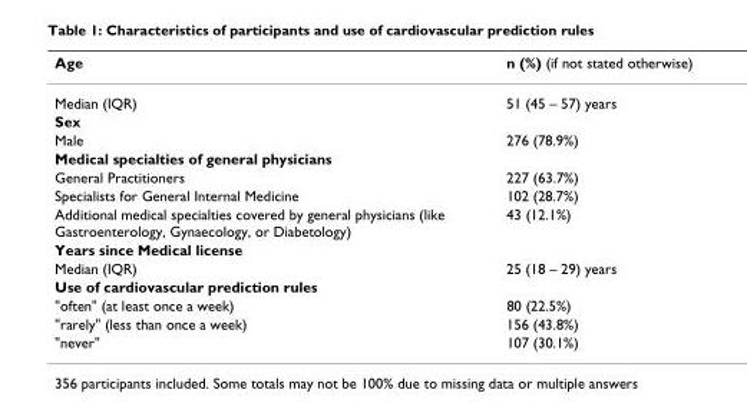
<table><thead><tr><td>Age</td><td>n (%) (if not stated otherwise)</td></tr></thead><tbody><tr><td>Median (IQR)</td><td>51 (45 – 57) years</td></tr><tr><td colspan="2">Sex</td></tr><tr><td>Male</td><td>276 (78.9%)</td></tr><tr><td colspan="2">Medical specialties of general physicians</td></tr><tr><td>General Practitioners</td><td>227 (63.7%)</td></tr><tr><td>Specialists for General Internal Medicine</td><td>102 (28.7%)</td></tr><tr><td>Additional medical specialties covered by general physicians (like Gastroenterology, Gynaecology, or Diabetology)</td><td>43 (12.1%)</td></tr><tr><td colspan="2">Years since Medical license</td></tr><tr><td>Median (IQR)</td><td>25 (18 – 29) years</td></tr><tr><td colspan="2">Use of cardiovascular prediction rules</td></tr><tr><td>&quot;often&quot; (at least once a week)</td><td>80 (22.5%)</td></tr><tr><td>&quot;rarely&quot; (less than once a week)</td><td>156 (43.8%)</td></tr><tr><td>&quot;never&quot;</td><td>107 (30.1%)</td></tr></tbody></table>